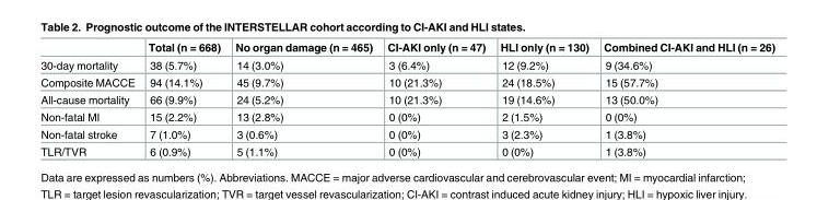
<table><thead><tr><td></td><td>Total (n = 668)</td><td>No organ damage (n = 465)</td><td>CI-AKI only (n = 47)</td><td>HLI only (n = 130)</td><td>Combined CI-AKI and HLI (n = 26)</td></tr></thead><tbody><tr><td>30-day mortality</td><td>38 (5.7%)</td><td>14 (3.0%)</td><td>3 (6.4%)</td><td>12 (9.2%)</td><td>9 (34.6%)</td></tr><tr><td>Composite MACCE</td><td>94 (14.1%)</td><td>45 (9.7%)</td><td>10 (21.3%)</td><td>24 (18.5%)</td><td>15 (57.7%)</td></tr><tr><td>All-cause mortality</td><td>66 (9.9%)</td><td>24 (5.2%)</td><td>10 (21.3%)</td><td>19 (14.6%)</td><td>13 (50.0%)</td></tr><tr><td>Non-fatal MI</td><td>15 (2.2%)</td><td>13 (2.8%)</td><td>0 (0%)</td><td>2 (1.5%)</td><td>0 (0%)</td></tr><tr><td>Non-fatal stroke</td><td>7 (1.0%)</td><td>3 (0.6%)</td><td>0 (0%)</td><td>3 (2.3%)</td><td>1 (3.8%)</td></tr><tr><td>TLR/TVR</td><td>6 (0.9%)</td><td>5 (1.1%)</td><td>0 (0%)</td><td>0 (0%)</td><td>1 (3.8%)</td></tr></tbody></table>